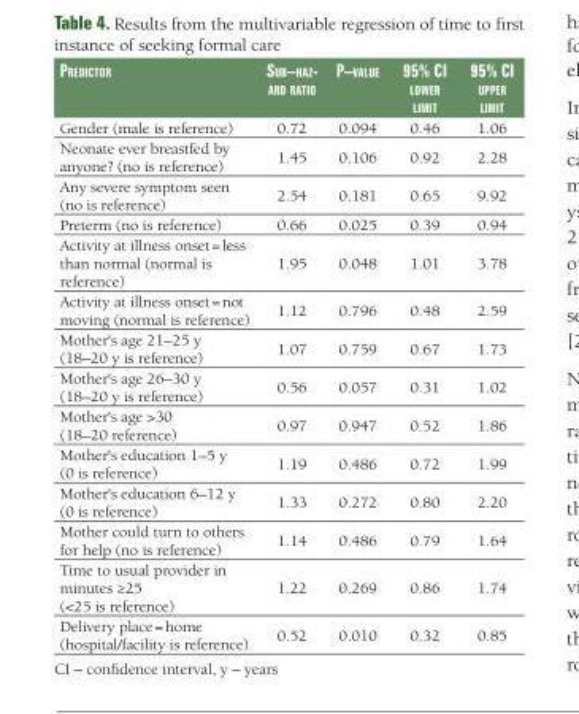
<table><thead><tr><td>Predictor</td><td>Sub–haz- ard ratio</td><td>P–Value</td><td>95% ci lower liMit</td><td>95% ci uPPer liMit</td></tr></thead><tbody><tr><td>Gender (male is reference)</td><td>0.72</td><td>0.094</td><td>0.46</td><td>1.06</td></tr><tr><td>Neonate ever breastfed by anyone? (no is reference)</td><td>1.45</td><td>0.106</td><td>0.92</td><td>2.28</td></tr><tr><td>Any severe symptom seen (no is reference)</td><td>2.54</td><td>0.181</td><td>0.65</td><td>9.92</td></tr><tr><td>Preterm (no is reference)</td><td>0.66</td><td>0.025</td><td>0.39</td><td>0.94</td></tr><tr><td>Activity at illness onset = less than normal (normal is reference)</td><td>1.95</td><td>0.048</td><td>1.01</td><td>3.78</td></tr><tr><td>Activity at illness onset = not moving (normal is reference)</td><td>1.12</td><td>0.796</td><td>0.48</td><td>2.59</td></tr><tr><td>Mother&#x27;s age 21–25 y (18–20 y is reference)</td><td>1.07</td><td>0.759</td><td>0.67</td><td>1.73</td></tr><tr><td>Mother&#x27;s age 26–30 y (18–20 y is reference)</td><td>0.56</td><td>0.057</td><td>0.31</td><td>1.02</td></tr><tr><td>Mother&#x27;s age &gt;30 (18–20 reference)</td><td>0.97</td><td>0.947</td><td>0.52</td><td>1.86</td></tr><tr><td>Mother&#x27;s education 1–5 y (0 is reference)</td><td>1.19</td><td>0.486</td><td>0.72</td><td>1.99</td></tr><tr><td>Mother&#x27;s education 6–12 y (0 is reference)</td><td>1.33</td><td>0.272</td><td>0.80</td><td>2.20</td></tr><tr><td>Mother could turn to others for help (no is reference)</td><td>1.14</td><td>0.486</td><td>0.79</td><td>1.64</td></tr><tr><td>Time to usual provider in minutes ≥25 (&lt;25 is reference)</td><td>1.22</td><td>0.269</td><td>0.86</td><td>1.74</td></tr><tr><td>Delivery place = home (hospital/facility is reference)</td><td>0.52</td><td>0.010</td><td>0.32</td><td>0.85</td></tr></tbody></table>